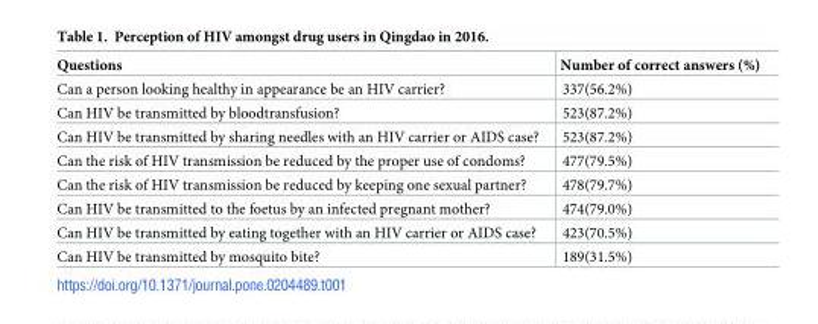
<table><thead><tr><td>Questions</td><td>Number of correct answers (%)</td></tr></thead><tbody><tr><td>Can a person looking healthy in appearance be an HIV carrier?</td><td>337(56.2%)</td></tr><tr><td>Can HIV be transmitted by bloodtransfusion?</td><td>523(87.2%)</td></tr><tr><td>Can HIV be transmitted by sharing needles with an HIV carrier or AIDS case?</td><td>523(87.2%)</td></tr><tr><td>Can the risk of HIV transmission be reduced by the proper use of condoms?</td><td>477(79.5%)</td></tr><tr><td>Can the risk of HIV transmission be reduced by keeping one sexual partner?</td><td>478(79.7%)</td></tr><tr><td>Can HIV be transmitted to the foetus by an infected pregnant mother?</td><td>474(79.0%)</td></tr><tr><td>Can HIV be transmitted by eating together with an HIV carrier or AIDS case?</td><td>423(70.5%)</td></tr><tr><td>Can HIV be transmitted by mosquito bite?</td><td>189(31.5%)</td></tr></tbody></table>